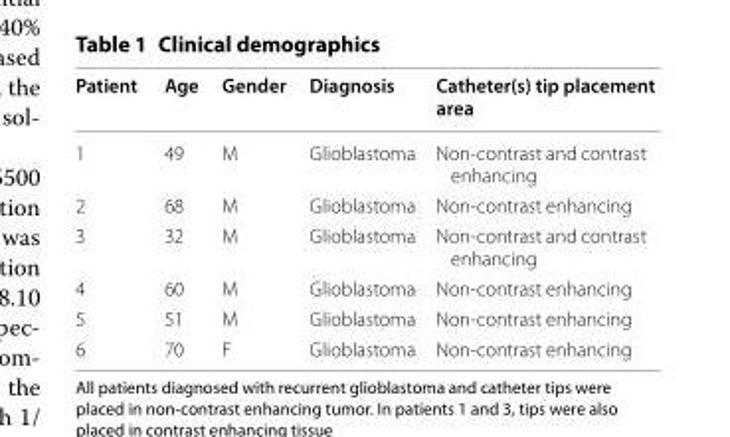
<table><thead><tr><td>Patient</td><td>Age</td><td>Gender</td><td>Diagnosis</td><td>Catheter(s) tip placement area</td></tr></thead><tbody><tr><td>1</td><td>49</td><td>M</td><td>Glioblastoma</td><td>Non-contrast and contrast enhancing</td></tr><tr><td>2</td><td>68</td><td>M</td><td>Glioblastoma</td><td>Non-contrast enhancing</td></tr><tr><td>3</td><td>32</td><td>M</td><td>Glioblastoma</td><td>Non-contrast and contrast enhancing</td></tr><tr><td>4</td><td>60</td><td>M</td><td>Glioblastoma</td><td>Non-contrast enhancing</td></tr><tr><td>5</td><td>51</td><td>M</td><td>Glioblastoma</td><td>Non-contrast enhancing</td></tr><tr><td>6</td><td>70</td><td>F</td><td>Glioblastoma</td><td>Non-contrast enhancing</td></tr></tbody></table>